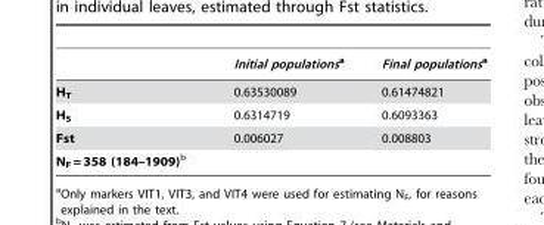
<table><thead><tr><td></td><td>Initial populationsa</td><td>Final populationsa</td></tr></thead><tbody><tr><td>H<sub>T</sub></td><td>0.63530089</td><td>0.61474821</td></tr><tr><td>H<sub>S</sub></td><td>0.6314719</td><td>0.6093363</td></tr><tr><td>Fst</td><td>0.006027</td><td>0.008803</td></tr><tr><td colspan="3">N<sub>F</sub> = 358 (184–1909)b</td></tr></tbody></table>